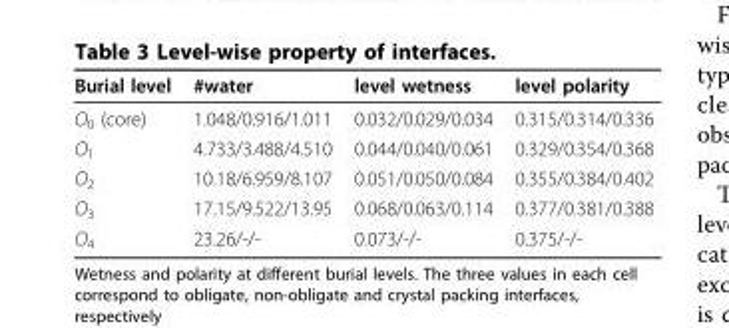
<table><thead><tr><td>Burial level</td><td>#water</td><td>level wetness</td><td>level polarity</td></tr></thead><tbody><tr><td>O<sub>0</sub> (core)</td><td>1.048/0.916/1.011</td><td>0.032/0.029/0.034</td><td>0.315/0.314/0.336</td></tr><tr><td>O<sub>1</sub></td><td>4.733/3.488/4.510</td><td>0.044/0.040/0.061</td><td>0.329/0.354/0.368</td></tr><tr><td>O<sub>2</sub></td><td>10.18/6.959/8.107</td><td>0.051/0.050/0.084</td><td>0.355/0.384/0.402</td></tr><tr><td>O<sub>3</sub></td><td>17.15/9.522/13.95</td><td>0.068/0.063/0.114</td><td>0.377/0.381/0.388</td></tr><tr><td>O<sub>4</sub></td><td>23.26/-/-</td><td>0.073/-/-</td><td>0.375/-/-</td></tr></tbody></table>